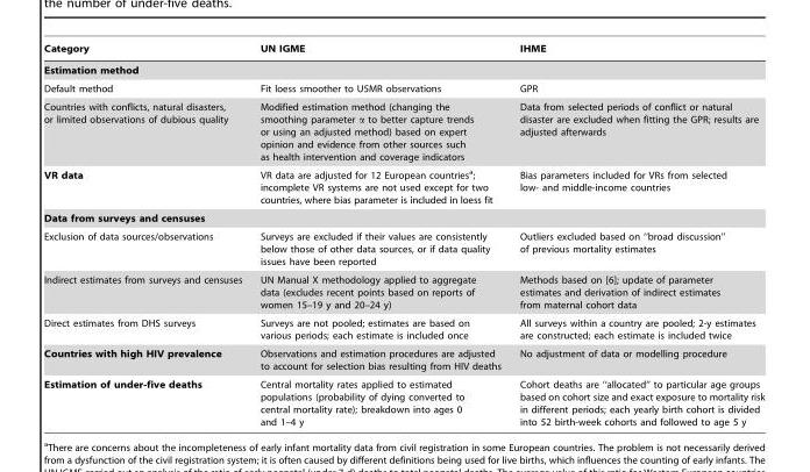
<table><thead><tr><td>Category</td><td>UN IGME</td><td>IHME</td></tr></thead><tbody><tr><td colspan="3">Estimation method</td></tr><tr><td>Default method</td><td>Fit loess smoother to U5MR observations</td><td>GPR</td></tr><tr><td>Countries with conflicts, natural disasters, or limited observations of dubious quality</td><td>Modified estimation method (changing the smoothing parameter α to better capture trends or using an adjusted method) based on expert opinion and evidence from other sources such as health intervention and coverage indicators</td><td>Data from selected periods of conflict or natural disaster are excluded when fitting the GPR; results are adjusted afterwards</td></tr><tr><td>VR data</td><td>VR data are adjusted for 12 European countries<sup>a</sup>; incomplete VR systems are not used except for two countries, where bias parameter is included in loess fit</td><td>Bias parameters included for VRs from selected low- and middle-income countries</td></tr><tr><td colspan="3">Data from surveys and censuses</td></tr><tr><td>Exclusion of data sources/observations</td><td>Surveys are excluded if their values are consistently below those of other data sources, or if data quality issues have been reported</td><td>Outliers excluded based on ‘‘broad discussion’’ of previous mortality estimates</td></tr><tr><td>Indirect estimates from surveys and censuses</td><td>UN Manual X methodology applied to aggregate data (excludes recent points based on reports of women 15–19 y and 20–24 y)</td><td>Methods based on [6]; update of parameter estimates and derivation of indirect estimates from maternal cohort data</td></tr><tr><td>Direct estimates from DHS surveys</td><td>Surveys are not pooled; estimates are based on various periods; each estimate is included once</td><td>All surveys within a country are pooled; 2-y estimates are constructed; each estimate is included twice</td></tr><tr><td>Countries with high HIV prevalence</td><td>Observations and estimation procedures are adjusted to account for selection bias resulting from HIV deaths</td><td>No adjustment of data or modelling procedure</td></tr><tr><td>Estimation of under-five deaths</td><td>Central mortality rates applied to estimated populations (probability of dying converted to central mortality rate); breakdown into ages 0 and 1–4 y</td><td>Cohort deaths are ‘‘allocated’’ to particular age groups based on cohort size and exact exposure to mortality risk in different periods; each yearly birth cohort is divided into 52 birth-week cohorts and followed to age 5 y</td></tr></tbody></table>